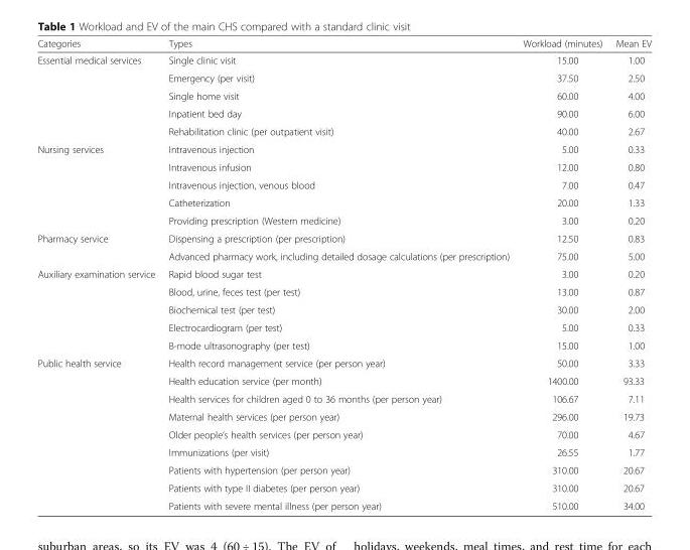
<table><thead><tr><td>Categories</td><td>Types</td><td>Workload (minutes)</td><td>Mean EV</td></tr></thead><tbody><tr><td rowspan="5">Essential medical services</td><td>Single clinic visit</td><td>15.00</td><td>1.00</td></tr><tr><td>Emergency (per visit)</td><td>37.50</td><td>2.50</td></tr><tr><td>Single home visit</td><td>60.00</td><td>4.00</td></tr><tr><td>Inpatient bed day</td><td>90.00</td><td>6.00</td></tr><tr><td>Rehabilitation clinic (per outpatient visit)</td><td>40.00</td><td>2.67</td></tr><tr><td rowspan="5">Nursing services</td><td>Intravenous injection</td><td>5.00</td><td>0.33</td></tr><tr><td>Intravenous infusion</td><td>12.00</td><td>0.80</td></tr><tr><td>Intravenous injection, venous blood</td><td>7.00</td><td>0.47</td></tr><tr><td>Catheterization</td><td>20.00</td><td>1.33</td></tr><tr><td>Providing prescription (Western medicine)</td><td>3.00</td><td>0.20</td></tr><tr><td rowspan="2">Pharmacy service</td><td>Dispensing a prescription (per prescription)</td><td>12.50</td><td>0.83</td></tr><tr><td>Advanced pharmacy work, including detailed dosage calculations (per prescription)</td><td>75.00</td><td>5.00</td></tr><tr><td rowspan="5">Auxiliary examination service</td><td>Rapid blood sugar test</td><td>3.00</td><td>0.20</td></tr><tr><td>Blood, urine, feces test (per test)</td><td>13.00</td><td>0.87</td></tr><tr><td>Biochemical test (per test)</td><td>30.00</td><td>2.00</td></tr><tr><td>Electrocardiogram (per test)</td><td>5.00</td><td>0.33</td></tr><tr><td>B-mode ultrasonography (per test)</td><td>15.00</td><td>1.00</td></tr><tr><td rowspan="9">Public health service</td><td>Health record management service (per person year)</td><td>50.00</td><td>3.33</td></tr><tr><td>Health education service (per month)</td><td>1400.00</td><td>93.33</td></tr><tr><td>Health services for children aged 0 to 36 months (per person year)</td><td>106.67</td><td>7.11</td></tr><tr><td>Maternal health services (per person year)</td><td>296.00</td><td>19.73</td></tr><tr><td>Older people’s health services (per person year)</td><td>70.00</td><td>4.67</td></tr><tr><td>Immunizations (per visit)</td><td>26.55</td><td>1.77</td></tr><tr><td>Patients with hypertension (per person year)</td><td>310.00</td><td>20.67</td></tr><tr><td>Patients with type II diabetes (per person year)</td><td>310.00</td><td>20.67</td></tr><tr><td>Patients with severe mental illness (per person year)</td><td>510.00</td><td>34.00</td></tr></tbody></table>